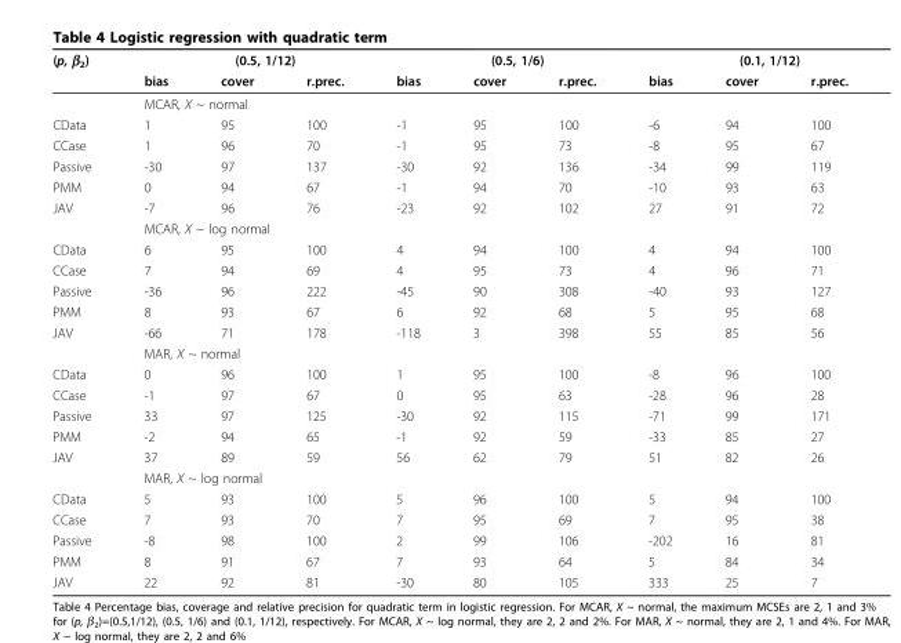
<table><thead><tr><td rowspan="2">(p, β<sub>2</sub>)</td><td colspan="3">(0.5, 1/12)</td><td colspan="3">(0.5, 1/6)</td><td colspan="3">(0.1, 1/12)</td></tr><tr><td>bias</td><td>cover</td><td>r.prec.</td><td>bias</td><td>cover</td><td>r.prec.</td><td>bias</td><td>cover</td><td>r.prec.</td></tr></thead><tbody><tr><td></td><td colspan="9">MCAR, X ~ normal</td></tr><tr><td>CData</td><td>1</td><td>95</td><td>100</td><td>-1</td><td>95</td><td>100</td><td>-6</td><td>94</td><td>100</td></tr><tr><td>CCase</td><td>1</td><td>96</td><td>70</td><td>-1</td><td>95</td><td>73</td><td>-8</td><td>95</td><td>67</td></tr><tr><td>Passive</td><td>-30</td><td>97</td><td>137</td><td>-30</td><td>92</td><td>136</td><td>-34</td><td>99</td><td>119</td></tr><tr><td>PMM</td><td>0</td><td>94</td><td>67</td><td>-1</td><td>94</td><td>70</td><td>-10</td><td>93</td><td>63</td></tr><tr><td rowspan="2">JAV</td><td>-7</td><td>96</td><td>76</td><td>-23</td><td>92</td><td>102</td><td>27</td><td>91</td><td>72</td></tr><tr><td colspan="9">MCAR, X ~ log normal</td></tr><tr><td>CData</td><td>6</td><td>95</td><td>100</td><td>4</td><td>94</td><td>100</td><td>4</td><td>94</td><td>100</td></tr><tr><td>CCase</td><td>7</td><td>94</td><td>69</td><td>4</td><td>95</td><td>73</td><td>4</td><td>96</td><td>71</td></tr><tr><td>Passive</td><td>-36</td><td>96</td><td>222</td><td>-45</td><td>90</td><td>308</td><td>-40</td><td>93</td><td>127</td></tr><tr><td>PMM</td><td>8</td><td>93</td><td>67</td><td>6</td><td>92</td><td>68</td><td>5</td><td>95</td><td>68</td></tr><tr><td rowspan="2">JAV</td><td>-66</td><td>71</td><td>178</td><td>-118</td><td>3</td><td>398</td><td>55</td><td>85</td><td>56</td></tr><tr><td colspan="9">MAR, X ~ normal</td></tr><tr><td>CData</td><td>0</td><td>96</td><td>100</td><td>1</td><td>95</td><td>100</td><td>-8</td><td>96</td><td>100</td></tr><tr><td>CCase</td><td>-1</td><td>97</td><td>67</td><td>0</td><td>95</td><td>63</td><td>-28</td><td>96</td><td>28</td></tr><tr><td>Passive</td><td>33</td><td>97</td><td>125</td><td>-30</td><td>92</td><td>115</td><td>-71</td><td>99</td><td>171</td></tr><tr><td>PMM</td><td>-2</td><td>94</td><td>65</td><td>-1</td><td>92</td><td>59</td><td>-33</td><td>85</td><td>27</td></tr><tr><td rowspan="2">JAV</td><td>37</td><td>89</td><td>59</td><td>56</td><td>62</td><td>79</td><td>51</td><td>82</td><td>26</td></tr><tr><td colspan="9">MAR, X ~ log normal</td></tr><tr><td>CData</td><td>5</td><td>93</td><td>100</td><td>5</td><td>96</td><td>100</td><td>5</td><td>94</td><td>100</td></tr><tr><td>CCase</td><td>7</td><td>93</td><td>70</td><td>7</td><td>95</td><td>69</td><td>7</td><td>95</td><td>38</td></tr><tr><td>Passive</td><td>-8</td><td>98</td><td>100</td><td>2</td><td>99</td><td>106</td><td>-202</td><td>16</td><td>81</td></tr><tr><td>PMM</td><td>8</td><td>91</td><td>67</td><td>7</td><td>93</td><td>64</td><td>5</td><td>84</td><td>34</td></tr><tr><td>JAV</td><td>22</td><td>92</td><td>81</td><td>-30</td><td>80</td><td>105</td><td>333</td><td>25</td><td>7</td></tr></tbody></table>